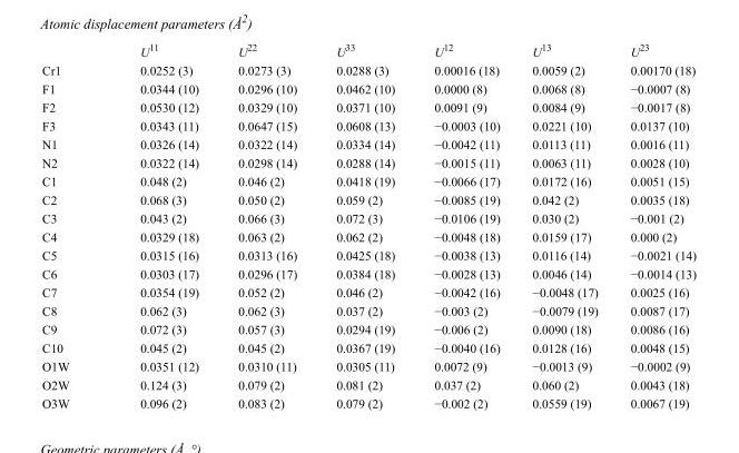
<table><thead><tr><td></td><td>U<sup>11</sup></td><td>U<sup>22</sup></td><td>U<sup>33</sup></td><td>U<sup>12</sup></td><td>U<sup>13</sup></td><td>U<sup>23</sup></td></tr></thead><tbody><tr><td>Cr1</td><td>0.0252 (3)</td><td>0.0273 (3)</td><td>0.0288 (3)</td><td>0.00016 (18)</td><td>0.0059 (2)</td><td>0.00170 (18)</td></tr><tr><td>F1</td><td>0.0344 (10)</td><td>0.0296 (10)</td><td>0.0462 (10)</td><td>0.0000 (8)</td><td>0.0068 (8)</td><td>−0.0007 (8)</td></tr><tr><td>F2</td><td>0.0530 (12)</td><td>0.0329 (10)</td><td>0.0371 (10)</td><td>0.0091 (9)</td><td>0.0084 (9)</td><td>−0.0017 (8)</td></tr><tr><td>F3</td><td>0.0343 (11)</td><td>0.0647 (15)</td><td>0.0608 (13)</td><td>−0.0003 (10)</td><td>0.0221 (10)</td><td>0.0137 (10)</td></tr><tr><td>N1</td><td>0.0326 (14)</td><td>0.0322 (14)</td><td>0.0334 (14)</td><td>−0.0042 (11)</td><td>0.0113 (11)</td><td>0.0016 (11)</td></tr><tr><td>N2</td><td>0.0322 (14)</td><td>0.0298 (14)</td><td>0.0288 (14)</td><td>−0.0015 (11)</td><td>0.0063 (11)</td><td>0.0028 (10)</td></tr><tr><td>C1</td><td>0.048 (2)</td><td>0.046 (2)</td><td>0.0418 (19)</td><td>−0.0066 (17)</td><td>0.0172 (16)</td><td>0.0051 (15)</td></tr><tr><td>C2</td><td>0.068 (3)</td><td>0.050 (2)</td><td>0.059 (2)</td><td>−0.0085 (19)</td><td>0.042 (2)</td><td>0.0035 (18)</td></tr><tr><td>C3</td><td>0.043 (2)</td><td>0.066 (3)</td><td>0.072 (3)</td><td>−0.0106 (19)</td><td>0.030 (2)</td><td>−0.001 (2)</td></tr><tr><td>C4</td><td>0.0329 (18)</td><td>0.063 (2)</td><td>0.062 (2)</td><td>−0.0048 (18)</td><td>0.0159 (17)</td><td>0.000 (2)</td></tr><tr><td>C5</td><td>0.0315 (16)</td><td>0.0313 (16)</td><td>0.0425 (18)</td><td>−0.0038 (13)</td><td>0.0116 (14)</td><td>−0.0021 (14)</td></tr><tr><td>C6</td><td>0.0303 (17)</td><td>0.0296 (17)</td><td>0.0384 (18)</td><td>−0.0028 (13)</td><td>0.0046 (14)</td><td>−0.0014 (13)</td></tr><tr><td>C7</td><td>0.0354 (19)</td><td>0.052 (2)</td><td>0.046 (2)</td><td>−0.0042 (16)</td><td>−0.0048 (17)</td><td>0.0025 (16)</td></tr><tr><td>C8</td><td>0.062 (3)</td><td>0.062 (3)</td><td>0.037 (2)</td><td>−0.003 (2)</td><td>−0.0079 (19)</td><td>0.0087 (17)</td></tr><tr><td>C9</td><td>0.072 (3)</td><td>0.057 (3)</td><td>0.0294 (19)</td><td>−0.006 (2)</td><td>0.0090 (18)</td><td>0.0086 (16)</td></tr><tr><td>C10</td><td>0.045 (2)</td><td>0.045 (2)</td><td>0.0367 (19)</td><td>−0.0040 (16)</td><td>0.0128 (16)</td><td>0.0048 (15)</td></tr><tr><td>O1W</td><td>0.0351 (12)</td><td>0.0310 (11)</td><td>0.0305 (11)</td><td>0.0072 (9)</td><td>−0.0013 (9)</td><td>−0.0002 (9)</td></tr><tr><td>O2W</td><td>0.124 (3)</td><td>0.079 (2)</td><td>0.081 (2)</td><td>0.037 (2)</td><td>0.060 (2)</td><td>0.0043 (18)</td></tr><tr><td>O3W</td><td>0.096 (2)</td><td>0.083 (2)</td><td>0.079 (2)</td><td>−0.002 (2)</td><td>0.0559 (19)</td><td>0.0067 (19)</td></tr></tbody></table>